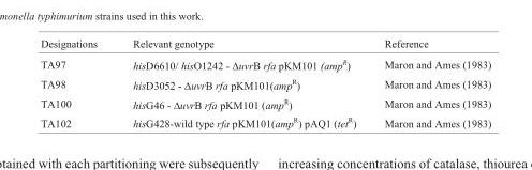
<table><thead><tr><td>Designations</td><td>Relevant genotype</td><td>Reference</td></tr></thead><tbody><tr><td>TA97</td><td>hisD6610/ hisO1242 - ΔuvrB rfa pKM101 (amp<sup>R</sup>)</td><td>Maron and Ames (1983)</td></tr><tr><td>TA98</td><td>hisD3052 - ΔuvrB rfa pKM101(amp<sup>R</sup>)</td><td>Maron and Ames (1983)</td></tr><tr><td>TA100</td><td>hisG46 - ΔuvrB rfa pKM101 (amp<sup>R</sup>)</td><td>Maron and Ames (1983)</td></tr><tr><td>TA102</td><td>hisG428-wild type rfa pKM101(amp<sup>R</sup>) pAQ1 (tet<sup>R</sup>)</td><td>Maron and Ames (1983)</td></tr></tbody></table>